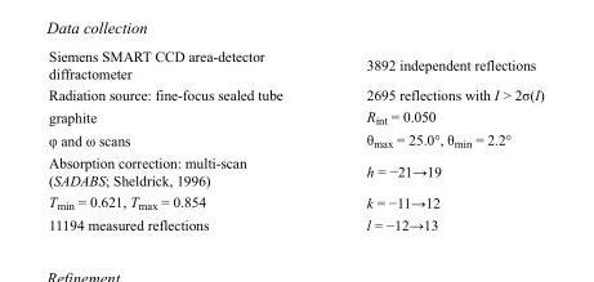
<table><tbody><tr><td>Siemens SMART CCD area-detector diffractometer</td><td>3892 independent reflections</td></tr><tr><td>Radiation source: fine-focus sealed tube</td><td>2695 reflections with I &gt; 2σ(I)</td></tr><tr><td>graphite</td><td>R<sub>int</sub> = 0.050</td></tr><tr><td>φ and ω scans</td><td>θ<sub>max</sub> = 25.0°, θ<sub>min</sub> = 2.2°</td></tr><tr><td>Absorption correction: multi-scan (SADABS; Sheldrick, 1996)</td><td>h = −21→19</td></tr><tr><td>T<sub>min</sub> = 0.621, T<sub>max</sub> = 0.854</td><td>k = −11→12</td></tr><tr><td>11194 measured reflections</td><td>l = −12→13</td></tr></tbody></table>